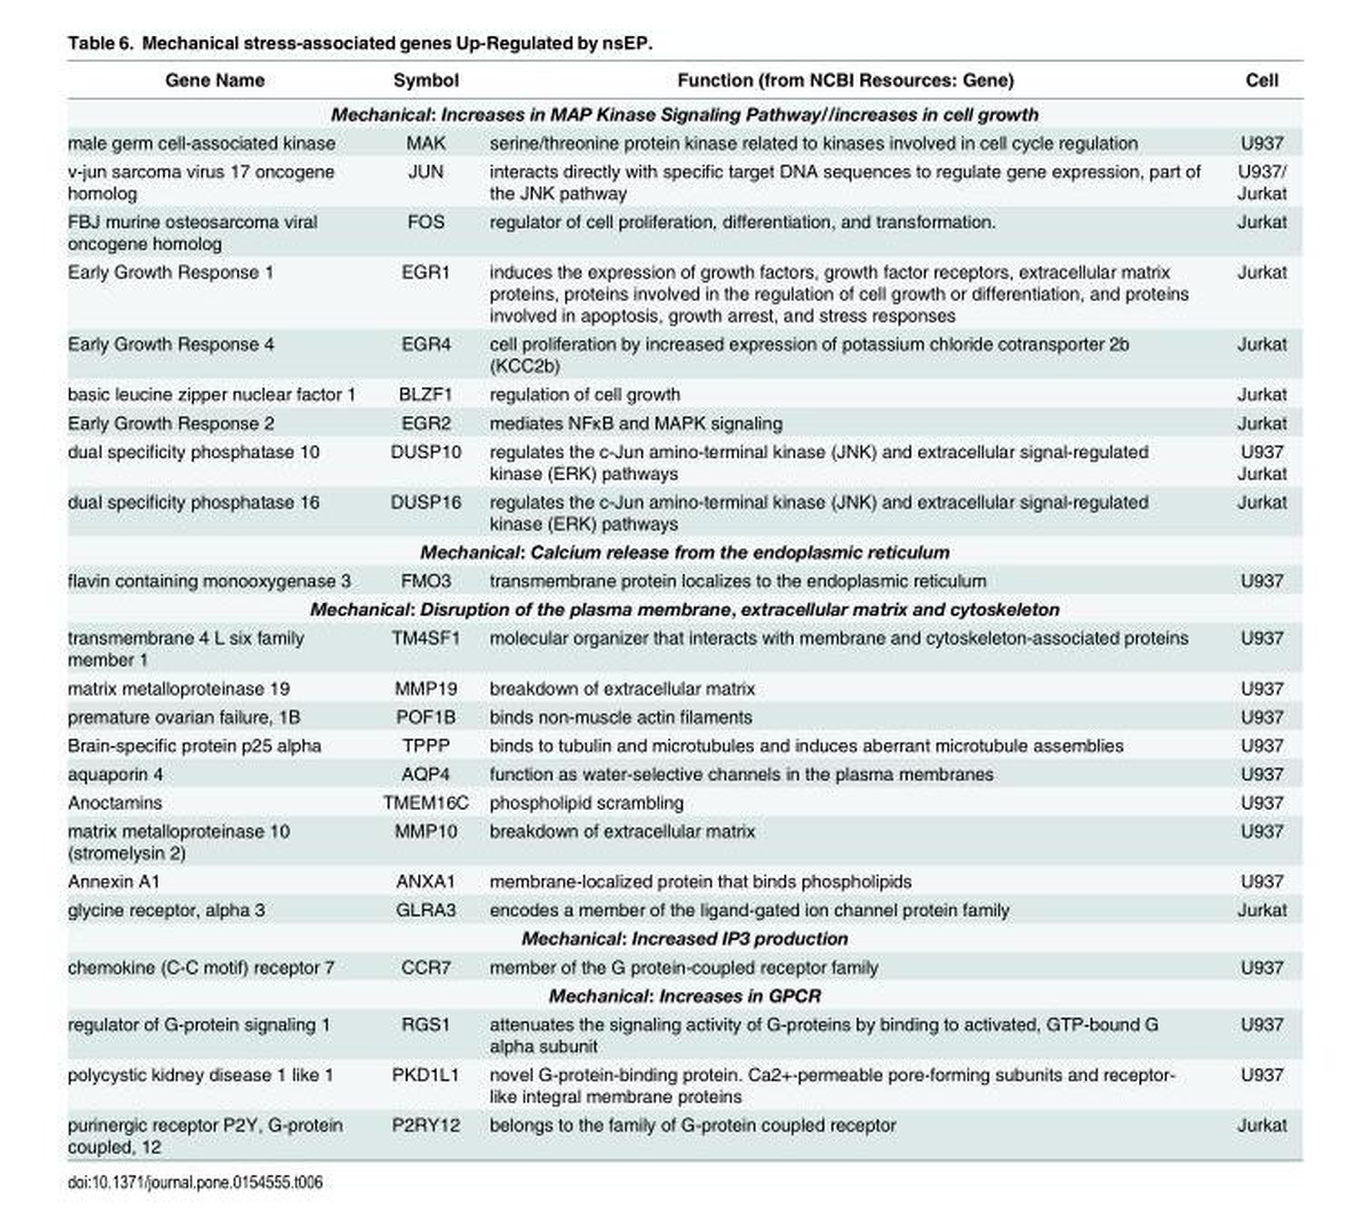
<table><thead><tr><td>Gene Name</td><td>Symbol</td><td>Function (from NCBI Resources: Gene)</td><td>Cell</td></tr></thead><tbody><tr><td colspan="4">Mechanical: Increases in MAP Kinase Signaling Pathway//increases in cell growth</td></tr><tr><td>male germ cell-associated kinase</td><td>MAK</td><td>serine/threonine protein kinase related to kinases involved in cell cycle regulation</td><td>U937</td></tr><tr><td>v-jun sarcoma virus 17 oncogene homolog</td><td>JUN</td><td>interacts directly with specific target DNA sequences to regulate gene expression, part of the JNK pathway</td><td>U937/ Jurkat</td></tr><tr><td>FBJ murine osteosarcoma viral oncogene homolog</td><td>FOS</td><td>regulator of cell proliferation, differentiation, and transformation.</td><td>Jurkat</td></tr><tr><td>Early Growth Response 1</td><td>EGR1</td><td>induces the expression of growth factors, growth factor receptors, extracellular matrix proteins, proteins involved in the regulation of cell growth or differentiation, and proteins involved in apoptosis, growth arrest, and stress responses</td><td>Jurkat</td></tr><tr><td>Early Growth Response 4</td><td>EGR4</td><td>cell proliferation by increased expression of potassium chloride cotransporter 2b (KCC2b)</td><td>Jurkat</td></tr><tr><td>basic leucine zipper nuclear factor 1</td><td>BLZF1</td><td>regulation of cell growth</td><td>Jurkat</td></tr><tr><td>Early Growth Response 2</td><td>EGR2</td><td>mediates NFκB and MAPK signaling</td><td>Jurkat</td></tr><tr><td>dual specificity phosphatase 10</td><td>DUSP10</td><td>regulates the c-Jun amino-terminal kinase (JNK) and extracellular signal-regulated kinase (ERK) pathways</td><td>U937 Jurkat</td></tr><tr><td>dual specificity phosphatase 16</td><td>DUSP16</td><td>regulates the c-Jun amino-terminal kinase (JNK) and extracellular signal-regulated kinase (ERK) pathways</td><td>Jurkat</td></tr><tr><td colspan="4">Mechanical: Calcium release from the endoplasmic reticulum</td></tr><tr><td>flavin containing monooxygenase 3</td><td>FMO3</td><td>transmembrane protein localizes to the endoplasmic reticulum</td><td>U937</td></tr><tr><td colspan="4">Mechanical: Disruption of the plasma membrane, extracellular matrix and cytoskeleton</td></tr><tr><td>transmembrane 4 L six family member 1</td><td>TM4SF1</td><td>molecular organizer that interacts with membrane and cytoskeleton-associated proteins</td><td>U937</td></tr><tr><td>matrix metalloproteinase 19</td><td>MMP19</td><td>breakdown of extracellular matrix</td><td>U937</td></tr><tr><td>premature ovarian failure, 1B</td><td>POF1B</td><td>binds non-muscle actin filaments</td><td>U937</td></tr><tr><td>Brain-specific protein p25 alpha</td><td>TPPP</td><td>binds to tubulin and microtubules and induces aberrant microtubule assemblies</td><td>U937</td></tr><tr><td>aquaporin 4</td><td>AQP4</td><td>function as water-selective channels in the plasma membranes</td><td>U937</td></tr><tr><td>Anoctamins</td><td>TMEM16C</td><td>phospholipid scrambling</td><td>U937</td></tr><tr><td>matrix metalloproteinase 10 (stromelysin 2)</td><td>MMP10</td><td>breakdown of extracellular matrix</td><td>U937</td></tr><tr><td>Annexin A1</td><td>ANXA1</td><td>membrane-localized protein that binds phospholipids</td><td>U937</td></tr><tr><td>glycine receptor, alpha 3</td><td>GLRA3</td><td>encodes a member of the ligand-gated ion channel protein family</td><td>Jurkat</td></tr><tr><td colspan="4">Mechanical: Increased IP3 production</td></tr><tr><td>chemokine (C-C motif) receptor 7</td><td>CCR7</td><td>member of the G protein-coupled receptor family</td><td>U937</td></tr><tr><td colspan="4">Mechanical: Increases in GPCR</td></tr><tr><td>regulator of G-protein signaling 1</td><td>RGS1</td><td>attenuates the signaling activity of G-proteins by binding to activated, GTP-bound G alpha subunit</td><td>U937</td></tr><tr><td>polycystic kidney disease 1 like 1</td><td>PKD1L1</td><td>novel G-protein-binding protein. Ca2+-permeable pore-forming subunits and receptor- like integral membrane proteins</td><td>U937</td></tr><tr><td>purinergic receptor P2Y, G-protein coupled, 12</td><td>P2RY12</td><td>belongs to the family of G-protein coupled receptor</td><td>Jurkat</td></tr></tbody></table>